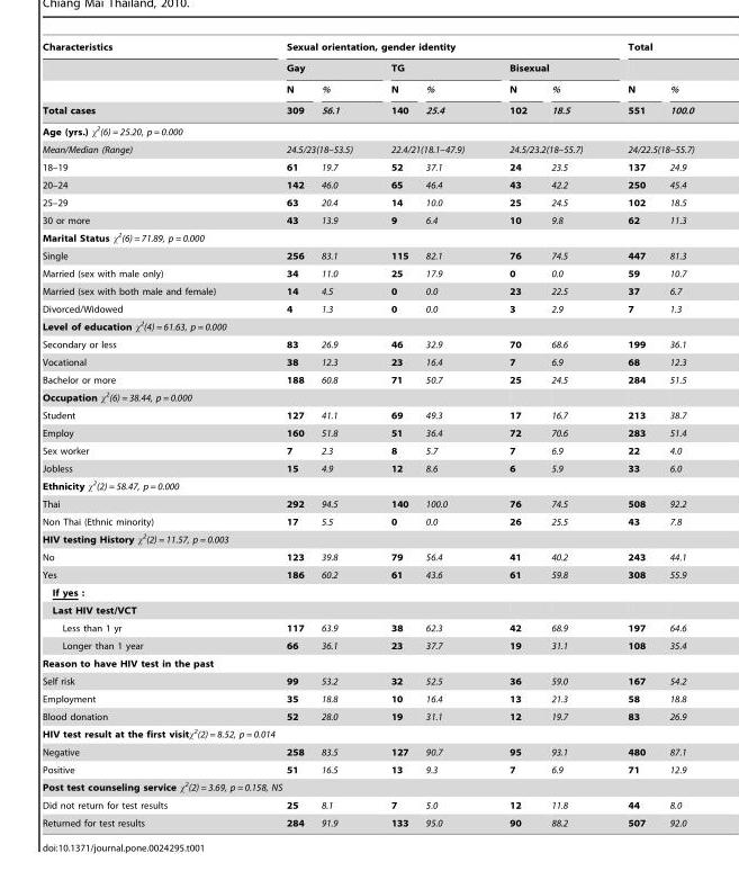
<table><thead><tr><td rowspan="4">Characteristics Total cases</td><td colspan="6">Sexual orientation, gender identity</td><td colspan="2">Total</td></tr><tr><td colspan="2">Gay</td><td colspan="2">TG</td><td colspan="2">Bisexual</td><td rowspan="3">N 551</td><td rowspan="3">% 100.0</td></tr><tr><td rowspan="2">N 309</td><td rowspan="2">% 56.1</td><td rowspan="2">N 140</td><td rowspan="2">% 25.4</td><td rowspan="2">N 102</td><td rowspan="2">% 18.5</td></tr><tr></tr></thead><tbody><tr><td colspan="9">Age (yrs.) χ<sup>2</sup>(6) = 25.20, p = 0.000</td></tr><tr><td>Mean/Median (Range)</td><td colspan="2">24.5/23(18–53.5)</td><td colspan="2">22.4/21(18.1–47.9)</td><td colspan="2">24.5/23.2(18–55.7)</td><td colspan="2">24/22.5(18–55.7)</td></tr><tr><td>18–19</td><td>61</td><td>19.7</td><td>52</td><td>37.1</td><td>24</td><td>23.5</td><td>137</td><td>24.9</td></tr><tr><td>20–24</td><td>142</td><td>46.0</td><td>65</td><td>46.4</td><td>43</td><td>42.2</td><td>250</td><td>45.4</td></tr><tr><td>25–29</td><td>63</td><td>20.4</td><td>14</td><td>10.0</td><td>25</td><td>24.5</td><td>102</td><td>18.5</td></tr><tr><td>30 or more</td><td>43</td><td>13.9</td><td>9</td><td>6.4</td><td>10</td><td>9.8</td><td>62</td><td>11.3</td></tr><tr><td colspan="9">Marital Status χ<sup>2</sup>(6) = 71.89, p = 0.000</td></tr><tr><td>Single</td><td>256</td><td>83.1</td><td>115</td><td>82.1</td><td>76</td><td>74.5</td><td>447</td><td>81.3</td></tr><tr><td>Married (sex with male only)</td><td>34</td><td>11.0</td><td>25</td><td>17.9</td><td>0</td><td>0.0</td><td>59</td><td>10.7</td></tr><tr><td>Married (sex with both male and female)</td><td>14</td><td>4.5</td><td>0</td><td>0.0</td><td>23</td><td>22.5</td><td>37</td><td>6.7</td></tr><tr><td>Divorced/Widowed</td><td>4</td><td>1.3</td><td>0</td><td>0.0</td><td>3</td><td>2.9</td><td>7</td><td>1.3</td></tr><tr><td colspan="9">Level of education χ<sup>2</sup>(4) = 61.63, p = 0.000</td></tr><tr><td>Secondary or less</td><td>83</td><td>26.9</td><td>46</td><td>32.9</td><td>70</td><td>68.6</td><td>199</td><td>36.1</td></tr><tr><td>Vocational</td><td>38</td><td>12.3</td><td>23</td><td>16.4</td><td>7</td><td>6.9</td><td>68</td><td>12.3</td></tr><tr><td>Bachelor or more</td><td>188</td><td>60.8</td><td>71</td><td>50.7</td><td>25</td><td>24.5</td><td>284</td><td>51.5</td></tr><tr><td colspan="9">Occupation χ<sup>2</sup>(6) = 38.44, p = 0.000</td></tr><tr><td>Student</td><td>127</td><td>41.1</td><td>69</td><td>49.3</td><td>17</td><td>16.7</td><td>213</td><td>38.7</td></tr><tr><td>Employ</td><td>160</td><td>51.8</td><td>51</td><td>36.4</td><td>72</td><td>70.6</td><td>283</td><td>51.4</td></tr><tr><td>Sex worker</td><td>7</td><td>2.3</td><td>8</td><td>5.7</td><td>7</td><td>6.9</td><td>22</td><td>4.0</td></tr><tr><td>Jobless</td><td>15</td><td>4.9</td><td>12</td><td>8.6</td><td>6</td><td>5.9</td><td>33</td><td>6.0</td></tr><tr><td colspan="9">Ethnicity χ<sup>2</sup>(2) = 58.47, p = 0.000</td></tr><tr><td>Thai</td><td>292</td><td>94.5</td><td>140</td><td>100.0</td><td>76</td><td>74.5</td><td>508</td><td>92.2</td></tr><tr><td>Non Thai (Ethnic minority)</td><td>17</td><td>5.5</td><td>0</td><td>0.0</td><td>26</td><td>25.5</td><td>43</td><td>7.8</td></tr><tr><td colspan="9">HIV testing History χ<sup>2</sup>(2) = 11.57, p = 0.003</td></tr><tr><td>No</td><td>123</td><td>39.8</td><td>79</td><td>56.4</td><td>41</td><td>40.2</td><td>243</td><td>44.1</td></tr><tr><td>Yes</td><td>186</td><td>60.2</td><td>61</td><td>43.6</td><td>61</td><td>59.8</td><td>308</td><td>55.9</td></tr><tr><td colspan="9">If yes :</td></tr><tr><td colspan="9">Last HIV test/VCT</td></tr><tr><td>Less than 1 yr</td><td>117</td><td>63.9</td><td>38</td><td>62.3</td><td>42</td><td>68.9</td><td>197</td><td>64.6</td></tr><tr><td>Longer than 1 year</td><td>66</td><td>36.1</td><td>23</td><td>37.7</td><td>19</td><td>31.1</td><td>108</td><td>35.4</td></tr><tr><td colspan="9">Reason to have HIV test in the past</td></tr><tr><td>Self risk</td><td>99</td><td>53.2</td><td>32</td><td>52.5</td><td>36</td><td>59.0</td><td>167</td><td>54.2</td></tr><tr><td>Employment</td><td>35</td><td>18.8</td><td>10</td><td>16.4</td><td>13</td><td>21.3</td><td>58</td><td>18.8</td></tr><tr><td>Blood donation</td><td>52</td><td>28.0</td><td>19</td><td>31.1</td><td>12</td><td>19.7</td><td>83</td><td>26.9</td></tr><tr><td colspan="9">HIV test result at the first visitχ<sup>2</sup>(2) = 8.52, p = 0.014</td></tr><tr><td>Negative</td><td>258</td><td>83.5</td><td>127</td><td>90.7</td><td>95</td><td>93.1</td><td>480</td><td>87.1</td></tr><tr><td>Positive</td><td>51</td><td>16.5</td><td>13</td><td>9.3</td><td>7</td><td>6.9</td><td>71</td><td>12.9</td></tr><tr><td colspan="9">Post test counseling service χ<sup>2</sup>(2) = 3.69, p = 0.158, NS</td></tr><tr><td>Did not return for test results</td><td>25</td><td>8.1</td><td>7</td><td>5.0</td><td>12</td><td>11.8</td><td>44</td><td>8.0</td></tr><tr><td>Returned for test results</td><td>284</td><td>91.9</td><td>133</td><td>95.0</td><td>90</td><td>88.2</td><td>507</td><td>92.0</td></tr></tbody></table>